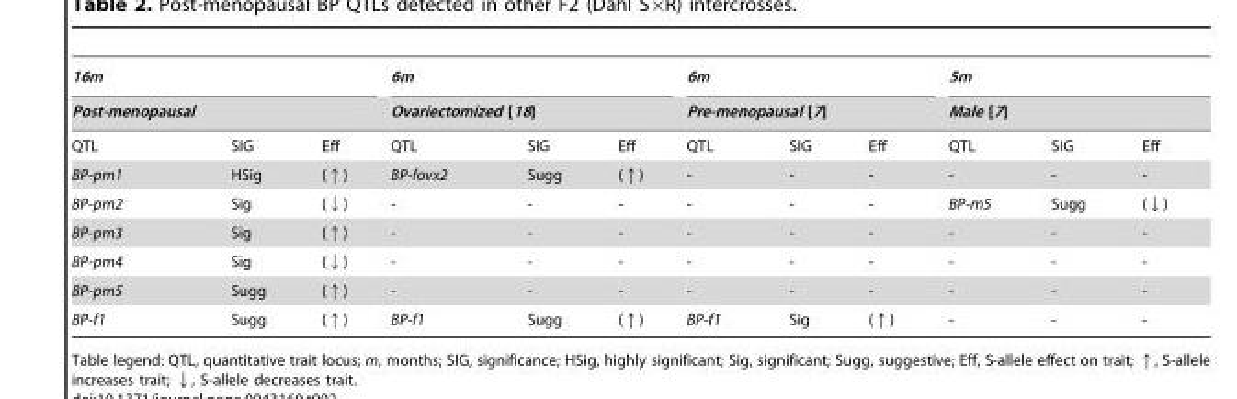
<table><thead><tr><td rowspan="2" colspan="3">16m Post-menopausal</td><td rowspan="2" colspan="3">6m Ovariectomized [18]</td><td rowspan="2" colspan="3">6m Pre-menopausal [7]</td><td rowspan="2" colspan="3">5m Male [7]</td></tr><tr></tr><tr><td>QTL</td><td>SIG</td><td>Eff</td><td>QTL</td><td>SIG</td><td>Eff</td><td>QTL</td><td>SIG</td><td>Eff</td><td>QTL</td><td>SIG</td><td>Eff</td></tr></thead><tbody><tr><td>BP-pm1</td><td>HSig</td><td>(↑)</td><td>BP-fovx2</td><td>Sugg</td><td>(↑)</td><td>-</td><td>-</td><td>-</td><td>-</td><td>-</td><td>-</td></tr><tr><td>BP-pm2</td><td>Sig</td><td>(↓)</td><td>-</td><td>-</td><td>-</td><td>-</td><td>-</td><td>-</td><td>BP-m5</td><td>Sugg</td><td>(↓)</td></tr><tr><td>BP-pm3</td><td>Sig</td><td>(↑)</td><td>-</td><td>-</td><td>-</td><td>-</td><td>-</td><td>-</td><td>-</td><td>-</td><td>-</td></tr><tr><td>BP-pm4</td><td>Sig</td><td>(↓)</td><td>-</td><td>-</td><td>-</td><td>-</td><td>-</td><td>-</td><td>-</td><td>-</td><td>-</td></tr><tr><td>BP-pm5</td><td>Sugg</td><td>(↑)</td><td>-</td><td>-</td><td>-</td><td>-</td><td>-</td><td>-</td><td>-</td><td>-</td><td>-</td></tr><tr><td>BP-f1</td><td>Sugg</td><td>(↑)</td><td>BP-f1</td><td>Sugg</td><td>(↑)</td><td>BP-f1</td><td>Sig</td><td>(↑)</td><td>-</td><td>-</td><td>-</td></tr></tbody></table>